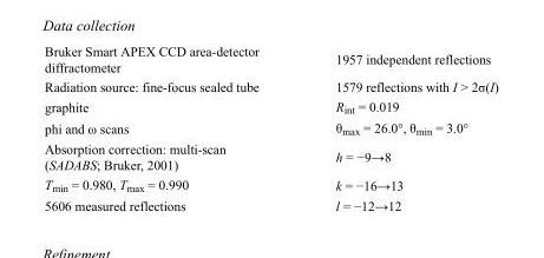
<table><tbody><tr><td>Bruker Smart APEX CCD area-detector diffractometer</td><td>1957 independent reflections</td></tr><tr><td>Radiation source: fine-focus sealed tube</td><td>1579 reflections with I &gt; 2σ(I)</td></tr><tr><td>graphite</td><td>R<sub>int</sub> = 0.019</td></tr><tr><td>phi and ω scans</td><td>θ<sub>max</sub> = 26.0°, θ<sub>min</sub> = 3.0°</td></tr><tr><td>Absorption correction: multi-scan (SADABS; Bruker, 2001)</td><td>h = −9→8</td></tr><tr><td>T<sub>min</sub> = 0.980, T<sub>max</sub> = 0.990</td><td>k = −16→13</td></tr><tr><td>5606 measured reflections</td><td>l = −12→12</td></tr></tbody></table>